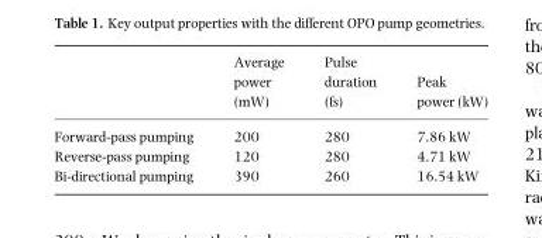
<table><thead><tr><td></td><td>Average power (mW)</td><td>Pulse duration (fs)</td><td>Peak power (kW)</td></tr></thead><tbody><tr><td>Forward-pass pumping</td><td>200</td><td>280</td><td>7.86 kW</td></tr><tr><td>Reverse-pass pumping</td><td>120</td><td>280</td><td>4.71 kW</td></tr><tr><td>Bi-directional pumping</td><td>390</td><td>260</td><td>16.54 kW</td></tr></tbody></table>